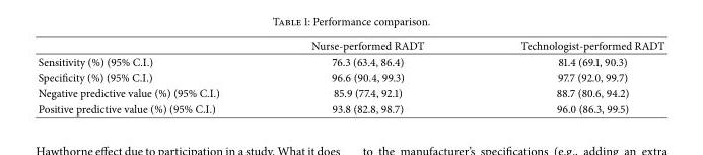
<table><thead><tr><td></td><td>Nurse-performed RADT</td><td>Technologist-performed RADT</td></tr></thead><tbody><tr><td>Sensitivity (%) (95% C.I.)</td><td>76.3 (63.4, 86.4)</td><td>81.4 (69.1, 90.3)</td></tr><tr><td>Specificity (%) (95% C.I.)</td><td>96.6 (90.4, 99.3)</td><td>97.7 (92.0, 99.7)</td></tr><tr><td>Negative predictive value (%) (95% C.I.)</td><td>85.9 (77.4, 92.1)</td><td>88.7 (80.6, 94.2)</td></tr><tr><td>Positive predictive value (%) (95% C.I.)</td><td>93.8 (82.8, 98.7)</td><td>96.0 (86.3, 99.5)</td></tr></tbody></table>